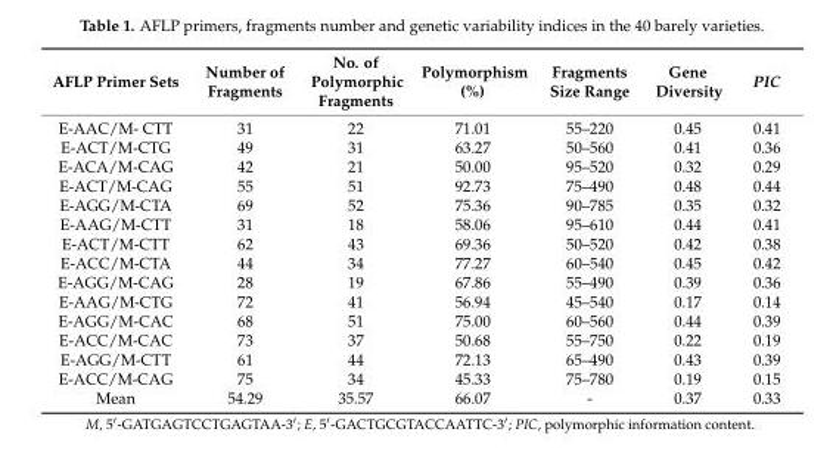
<table><thead><tr><td>AFLP Primer Sets</td><td>Number of Fragments</td><td>No. of Polymorphic Fragments</td><td>Polymorphism (%)</td><td>Fragments Size Range</td><td>Gene Diversity</td><td>PIC</td></tr></thead><tbody><tr><td>E-AAC/M- CTT</td><td>31</td><td>22</td><td>71.01</td><td>55–220</td><td>0.45</td><td>0.41</td></tr><tr><td>E-ACT/M-CTG</td><td>49</td><td>31</td><td>63.27</td><td>50–560</td><td>0.41</td><td>0.36</td></tr><tr><td>E-ACA/M-CAG</td><td>42</td><td>21</td><td>50.00</td><td>95–520</td><td>0.32</td><td>0.29</td></tr><tr><td>E-ACT/M-CAG</td><td>55</td><td>51</td><td>92.73</td><td>75–490</td><td>0.48</td><td>0.44</td></tr><tr><td>E-AGG/M-CTA</td><td>69</td><td>52</td><td>75.36</td><td>90–785</td><td>0.35</td><td>0.32</td></tr><tr><td>E-AAG/M-CTT</td><td>31</td><td>18</td><td>58.06</td><td>95–610</td><td>0.44</td><td>0.41</td></tr><tr><td>E-ACT/M-CTT</td><td>62</td><td>43</td><td>69.36</td><td>50–520</td><td>0.42</td><td>0.38</td></tr><tr><td>E-ACC/M-CTA</td><td>44</td><td>34</td><td>77.27</td><td>60–540</td><td>0.45</td><td>0.42</td></tr><tr><td>E-AGG/M-CAG</td><td>28</td><td>19</td><td>67.86</td><td>55–490</td><td>0.39</td><td>0.36</td></tr><tr><td>E-AAG/M-CTG</td><td>72</td><td>41</td><td>56.94</td><td>45–540</td><td>0.17</td><td>0.14</td></tr><tr><td>E-AGG/M-CAC</td><td>68</td><td>51</td><td>75.00</td><td>60–560</td><td>0.44</td><td>0.39</td></tr><tr><td>E-ACC/M-CAC</td><td>73</td><td>37</td><td>50.68</td><td>55–750</td><td>0.22</td><td>0.19</td></tr><tr><td>E-AGG/M-CTT</td><td>61</td><td>44</td><td>72.13</td><td>65–490</td><td>0.43</td><td>0.39</td></tr><tr><td>E-ACC/M-CAG</td><td>75</td><td>34</td><td>45.33</td><td>75–780</td><td>0.19</td><td>0.15</td></tr><tr><td>Mean</td><td>54.29</td><td>35.57</td><td>66.07</td><td>-</td><td>0.37</td><td>0.33</td></tr></tbody></table>